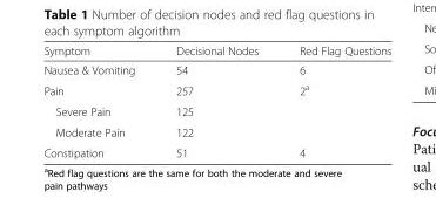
<table><thead><tr><td>Symptom</td><td>Decisional Nodes</td><td>Red Flag Questions</td></tr></thead><tbody><tr><td>Nausea &amp; Vomiting</td><td>54</td><td>6</td></tr><tr><td>Pain</td><td>257</td><td>2<sup>a</sup></td></tr><tr><td>Severe Pain</td><td>125</td><td></td></tr><tr><td>Moderate Pain</td><td>122</td><td></td></tr><tr><td>Constipation</td><td>51</td><td>4</td></tr></tbody></table>